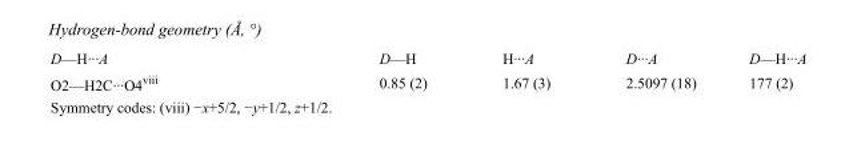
<table><tbody><tr><td>D—H···A</td><td>D—H</td><td>H···A</td><td>D···A</td><td>D—H···A</td></tr><tr><td>O2—H2C···O4<sup>viii</sup></td><td>0.85 (2)</td><td>1.67 (3)</td><td>2.5097 (18)</td><td>177 (2)</td></tr></tbody></table>